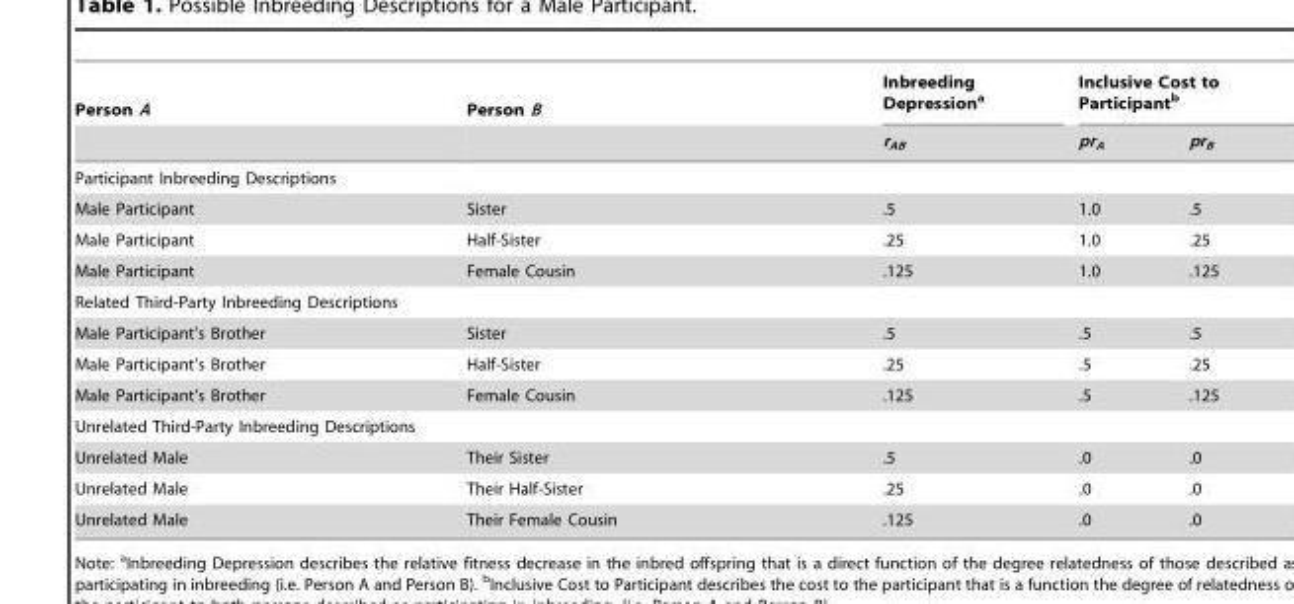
<table><thead><tr><td rowspan="2">Person A</td><td rowspan="2">Person B</td><td rowspan="2">Inbreeding Depression<sup>a</sup> r<sub>AB</sub></td><td colspan="2">Inclusive Cost to Participant<sup>b</sup></td></tr><tr><td>pr<sub>A</sub></td><td>pr<sub>B</sub></td></tr></thead><tbody><tr><td colspan="5">Participant Inbreeding Descriptions</td></tr><tr><td>Male Participant</td><td>Sister</td><td>.5</td><td>1.0</td><td>.5</td></tr><tr><td>Male Participant</td><td>Half-Sister</td><td>.25</td><td>1.0</td><td>.25</td></tr><tr><td>Male Participant</td><td>Female Cousin</td><td>.125</td><td>1.0</td><td>.125</td></tr><tr><td colspan="5">Related Third-Party Inbreeding Descriptions</td></tr><tr><td>Male Participant’s Brother</td><td>Sister</td><td>.5</td><td>.5</td><td>.5</td></tr><tr><td>Male Participant’s Brother</td><td>Half-Sister</td><td>.25</td><td>.5</td><td>.25</td></tr><tr><td>Male Participant’s Brother</td><td>Female Cousin</td><td>.125</td><td>.5</td><td>.125</td></tr><tr><td colspan="5">Unrelated Third-Party Inbreeding Descriptions</td></tr><tr><td>Unrelated Male</td><td>Their Sister</td><td>.5</td><td>.0</td><td>.0</td></tr><tr><td>Unrelated Male</td><td>Their Half-Sister</td><td>.25</td><td>.0</td><td>.0</td></tr><tr><td>Unrelated Male</td><td>Their Female Cousin</td><td>.125</td><td>.0</td><td>.0</td></tr></tbody></table>